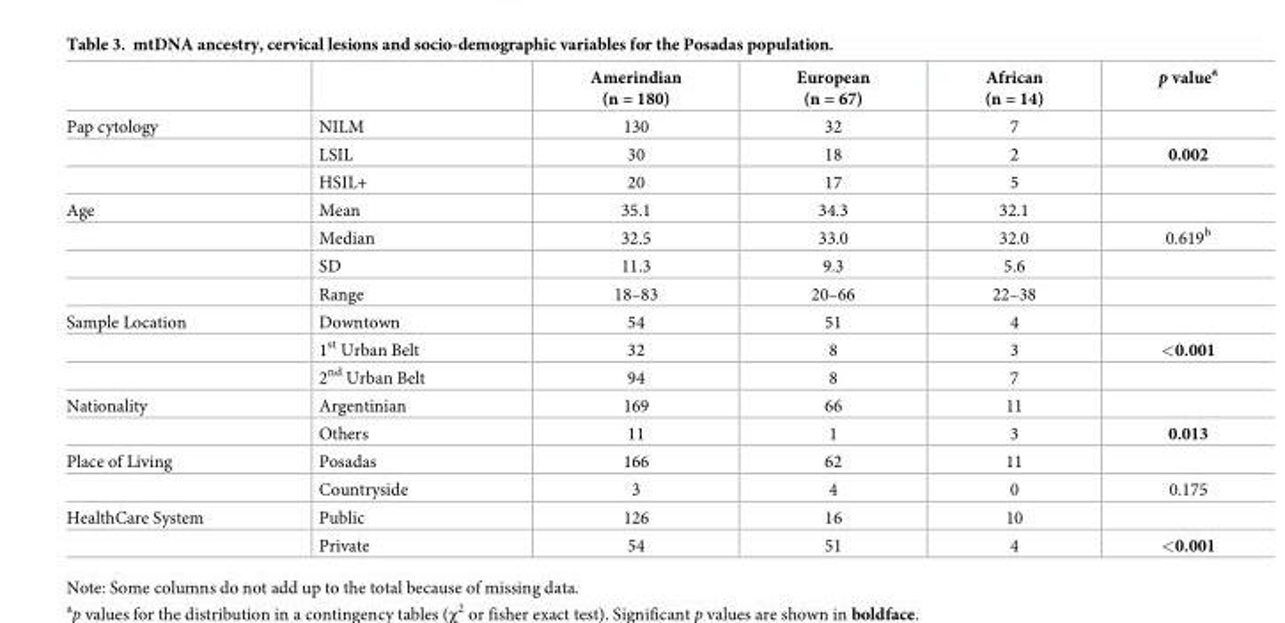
<table><thead><tr><td></td><td></td><td>Amerindian (n = 180)</td><td>European (n = 67)</td><td>African (n = 14)</td><td>p value<sup>a</sup></td></tr></thead><tbody><tr><td rowspan="3">Pap cytology</td><td>NILM</td><td>130</td><td>32</td><td>7</td><td></td></tr><tr><td>LSIL</td><td>30</td><td>18</td><td>2</td><td>0.002</td></tr><tr><td>HSIL+</td><td>20</td><td>17</td><td>5</td><td></td></tr><tr><td rowspan="4">Age</td><td>Mean</td><td>35.1</td><td>34.3</td><td>32.1</td><td></td></tr><tr><td>Median</td><td>32.5</td><td>33.0</td><td>32.0</td><td>0.619<sup>b</sup></td></tr><tr><td>SD</td><td>11.3</td><td>9.3</td><td>5.6</td><td></td></tr><tr><td>Range</td><td>18–83</td><td>20–66</td><td>22–38</td><td></td></tr><tr><td rowspan="3">Sample Location</td><td>Downtown</td><td>54</td><td>51</td><td>4</td><td></td></tr><tr><td>1<sup>st</sup> Urban Belt</td><td>32</td><td>8</td><td>3</td><td>&lt;0.001</td></tr><tr><td>2<sup>nd</sup> Urban Belt</td><td>94</td><td>8</td><td>7</td><td></td></tr><tr><td rowspan="2">Nationality</td><td>Argentinian</td><td>169</td><td>66</td><td>11</td><td></td></tr><tr><td>Others</td><td>11</td><td>1</td><td>3</td><td>0.013</td></tr><tr><td rowspan="2">Place of Living</td><td>Posadas</td><td>166</td><td>62</td><td>11</td><td></td></tr><tr><td>Countryside</td><td>3</td><td>4</td><td>0</td><td>0.175</td></tr><tr><td rowspan="2">HealthCare System</td><td>Public</td><td>126</td><td>16</td><td>10</td><td></td></tr><tr><td>Private</td><td>54</td><td>51</td><td>4</td><td>&lt;0.001</td></tr></tbody></table>